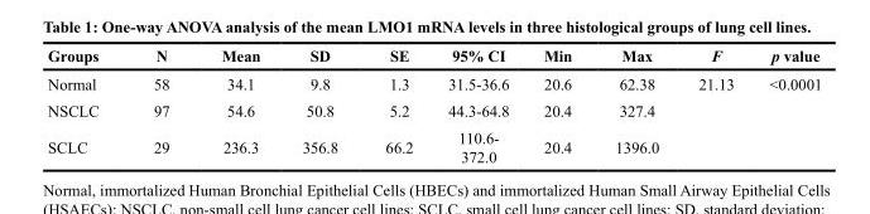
<table><thead><tr><td>Groups</td><td>N</td><td>Mean</td><td>SD</td><td>SE</td><td>95% CI</td><td>Min</td><td>Max</td><td>F</td><td>p value</td></tr></thead><tbody><tr><td>Normal</td><td>58</td><td>34.1</td><td>9.8</td><td>1.3</td><td>31.5-36.6</td><td>20.6</td><td>62.38</td><td>21.13</td><td>&lt;0.0001</td></tr><tr><td>NSCLC</td><td>97</td><td>54.6</td><td>50.8</td><td>5.2</td><td>44.3-64.8</td><td>20.4</td><td>327.4</td><td></td><td></td></tr><tr><td>SCLC</td><td>29</td><td>236.3</td><td>356.8</td><td>66.2</td><td>110.6- 372.0</td><td>20.4</td><td>1396.0</td><td></td><td></td></tr></tbody></table>